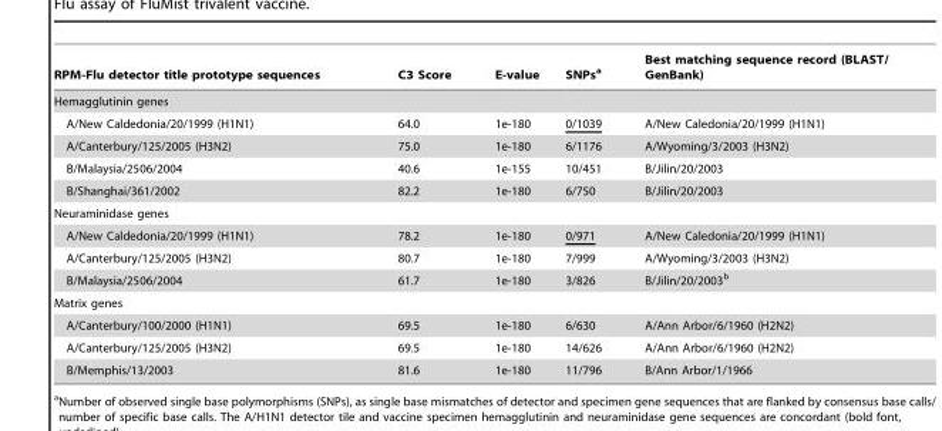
<table><thead><tr><td>RPM-Flu detector title prototype sequences</td><td>C3 Score</td><td>E-value</td><td>SNPs<sup>a</sup></td><td>Best matching sequence record (BLAST/ GenBank)</td></tr></thead><tbody><tr><td colspan="5">Hemagglutinin genes</td></tr><tr><td>A/New Caldedonia/20/1999 (H1N1)</td><td>64.0</td><td>1e-180</td><td>0/1039</td><td>A/New Caledonia/20/1999 (H1N1)</td></tr><tr><td>A/Canterbury/125/2005 (H3N2)</td><td>75.0</td><td>1e-180</td><td>6/1176</td><td>A/Wyoming/3/2003 (H3N2)</td></tr><tr><td>B/Malaysia/2506/2004</td><td>40.6</td><td>1e-155</td><td>10/451</td><td>B/Jilin/20/2003</td></tr><tr><td>B/Shanghai/361/2002</td><td>82.2</td><td>1e-180</td><td>6/750</td><td>B/Jilin/20/2003</td></tr><tr><td colspan="5">Neuraminidase genes</td></tr><tr><td>A/New Caldedonia/20/1999 (H1N1)</td><td>78.2</td><td>1e-180</td><td>0/971</td><td>A/New Caledonia/20/1999 (H1N1)</td></tr><tr><td>A/Canterbury/125/2005 (H3N2)</td><td>80.7</td><td>1e-180</td><td>7/999</td><td>A/Wyoming/3/2003 (H3N2)</td></tr><tr><td>B/Malaysia/2506/2004</td><td>61.7</td><td>1e-180</td><td>3/826</td><td>B/Jilin/20/2003<sup>b</sup></td></tr><tr><td colspan="5">Matrix genes</td></tr><tr><td>A/Canterbury/100/2000 (H1N1)</td><td>69.5</td><td>1e-180</td><td>6/630</td><td>A/Ann Arbor/6/1960 (H2N2)</td></tr><tr><td>A/Canterbury/125/2005 (H3N2)</td><td>69.5</td><td>1e-180</td><td>14/626</td><td>A/Ann Arbor/6/1960 (H2N2)</td></tr><tr><td>B/Memphis/13/2003</td><td>81.6</td><td>1e-180</td><td>11/796</td><td>B/Ann Arbor/1/1966</td></tr></tbody></table>